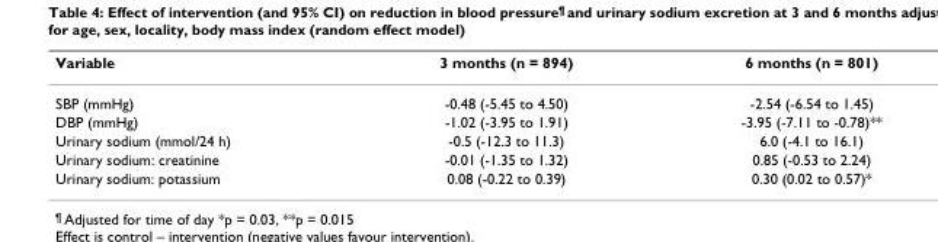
<table><thead><tr><td>Variable</td><td>3 months (n = 894)</td><td>6 months (n = 801)</td></tr></thead><tbody><tr><td>SBP (mmHg)</td><td>-0.48 (-5.45 to 4.50)</td><td>-2.54 (-6.54 to 1.45)</td></tr><tr><td>DBP (mmHg)</td><td>-1.02 (-3.95 to 1.91)</td><td>-3.95 (-7.11 to -0.78)**</td></tr><tr><td>Urinary sodium (mmol/24 h)</td><td>-0.5 (-12.3 to 11.3)</td><td>6.0 (-4.1 to 16.1)</td></tr><tr><td>Urinary sodium: creatinine</td><td>-0.01 (-1.35 to 1.32)</td><td>0.85 (-0.53 to 2.24)</td></tr><tr><td>Urinary sodium: potassium</td><td>0.08 (-0.22 to 0.39)</td><td>0.30 (0.02 to 0.57)*</td></tr></tbody></table>